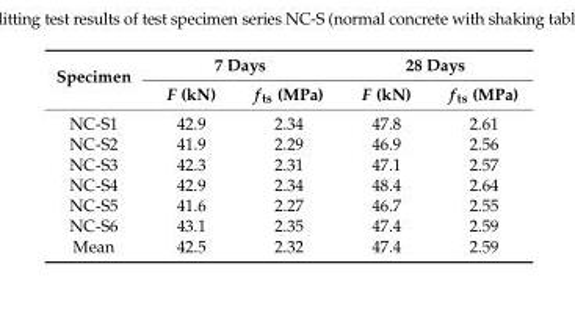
<table><thead><tr><td rowspan="2">Specimen</td><td colspan="2">7 Days</td><td colspan="2">28 Days</td></tr><tr><td>F (kN)</td><td>f<sub>ts</sub> (MPa)</td><td>F (kN)</td><td>f<sub>ts</sub> (MPa)</td></tr></thead><tbody><tr><td>NC-S1</td><td>42.9</td><td>2.34</td><td>47.8</td><td>2.61</td></tr><tr><td>NC-S2</td><td>41.9</td><td>2.29</td><td>46.9</td><td>2.56</td></tr><tr><td>NC-S3</td><td>42.3</td><td>2.31</td><td>47.1</td><td>2.57</td></tr><tr><td>NC-S4</td><td>42.9</td><td>2.34</td><td>48.4</td><td>2.64</td></tr><tr><td>NC-S5</td><td>41.6</td><td>2.27</td><td>46.7</td><td>2.55</td></tr><tr><td>NC-S6</td><td>43.1</td><td>2.35</td><td>47.4</td><td>2.59</td></tr><tr><td>Mean</td><td>42.5</td><td>2.32</td><td>47.4</td><td>2.59</td></tr></tbody></table>